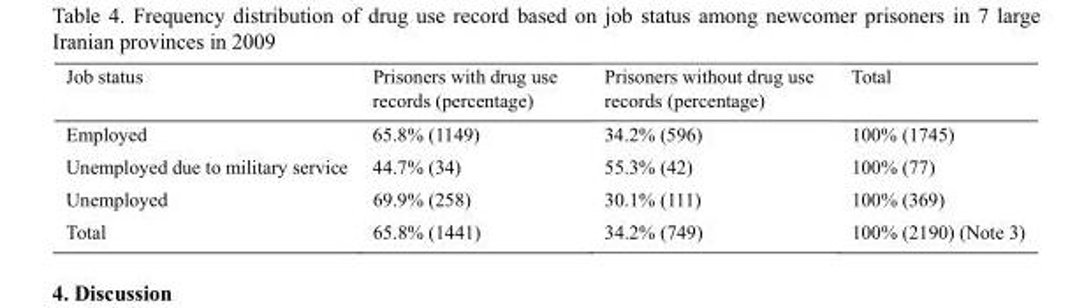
<table><thead><tr><td>Job status</td><td>Prisoners with drug use records (percentage)</td><td>Prisoners without drug use records (percentage)</td><td>Total</td></tr></thead><tbody><tr><td>Employed</td><td>65.8% (1149)</td><td>34.2% (596)</td><td>100% (1745)</td></tr><tr><td>Unemployed due to military service</td><td>44.7% (34)</td><td>55.3% (42)</td><td>100% (77)</td></tr><tr><td>Unemployed</td><td>69.9% (258)</td><td>30.1% (111)</td><td>100% (369)</td></tr><tr><td>Total</td><td>65.8% (1441)</td><td>34.2% (749)</td><td>100% (2190) (Note 3)</td></tr></tbody></table>